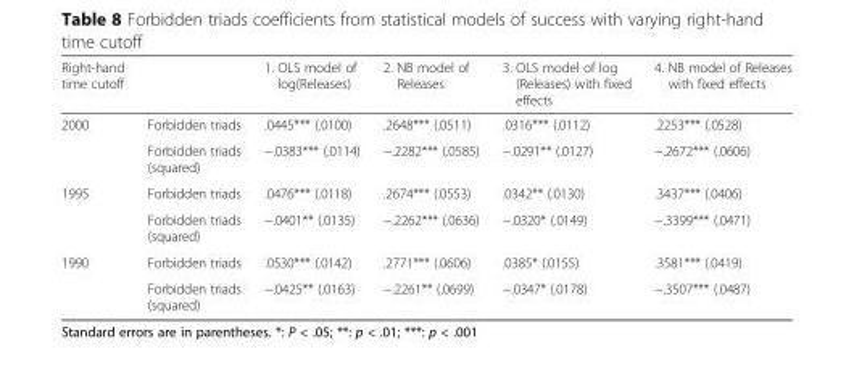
<table><thead><tr><td>Right-hand time cutoff</td><td></td><td>1. OLS model of log(Releases)</td><td>2. NB model of Releases</td><td>3. OLS model of log (Releases) with fixed effects</td><td>4. NB model of Releases with fixed effects</td></tr></thead><tbody><tr><td rowspan="2">2000</td><td>Forbidden triads</td><td>.0445*** (.0100)</td><td>.2648*** (.0511)</td><td>.0316*** (.0112)</td><td>.2253*** (.0528)</td></tr><tr><td>Forbidden triads (squared)</td><td>−.0383*** (.0114)</td><td>−.2282*** (.0585)</td><td>−.0291** (.0127)</td><td>−.2672*** (.0606)</td></tr><tr><td rowspan="2">1995</td><td>Forbidden triads</td><td>.0476*** (.0118)</td><td>.2674*** (.0553)</td><td>.0342** (.0130)</td><td>.3437*** (.0406)</td></tr><tr><td>Forbidden triads (squared)</td><td>−.0401** (.0135)</td><td>−.2262*** (.0636)</td><td>−.0320* (.0149)</td><td>−.3399*** (.0471)</td></tr><tr><td rowspan="2">1990</td><td>Forbidden triads</td><td>.0530*** (.0142)</td><td>.2771*** (.0606)</td><td>.0385* (.0155)</td><td>.3581*** (.0419)</td></tr><tr><td>Forbidden triads (squared)</td><td>−.0425** (.0163)</td><td>−.2261** (.0699)</td><td>−.0347* (.0178)</td><td>−.3507*** (.0487)</td></tr></tbody></table>